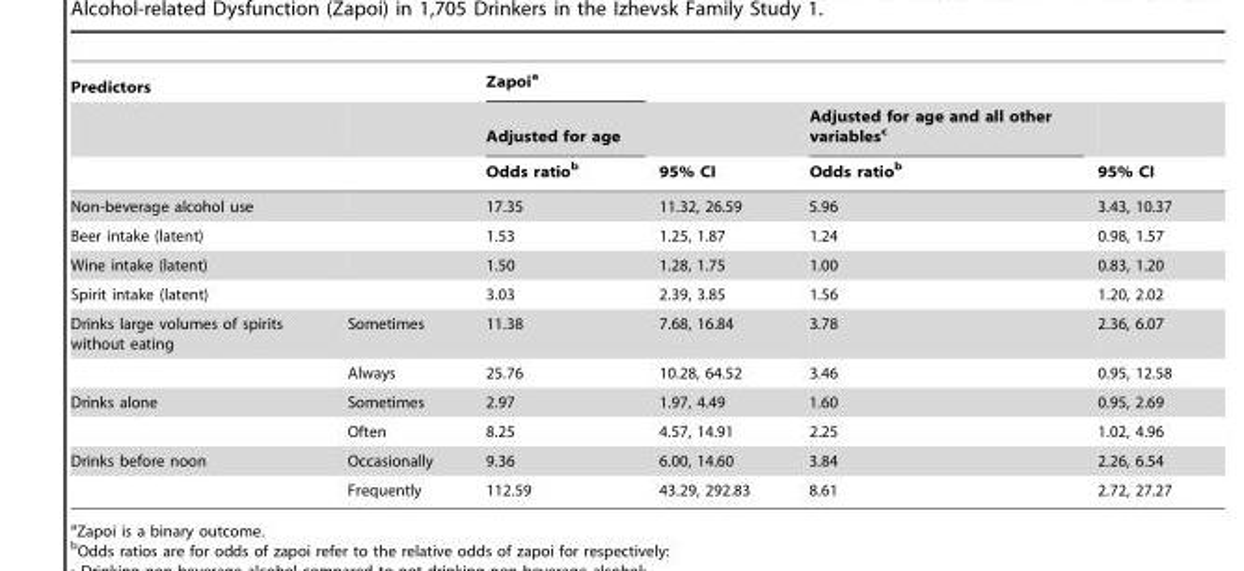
<table><thead><tr><td rowspan="3">Predictors</td><td rowspan="3"></td><td rowspan="3">Zapoi<sup>a</sup> Adjusted for age Odds ratio<sup>b</sup></td><td rowspan="3">95% CI</td><td rowspan="3">Adjusted for age and all other variables<sup>c</sup> Odds ratio<sup>b</sup></td><td rowspan="3">95% CI</td></tr><tr></tr><tr></tr></thead><tbody><tr><td>Non-beverage alcohol use</td><td></td><td>17.35</td><td>11.32, 26.59</td><td>5.96</td><td>3.43, 10.37</td></tr><tr><td>Beer intake (latent)</td><td></td><td>1.53</td><td>1.25, 1.87</td><td>1.24</td><td>0.98, 1.57</td></tr><tr><td>Wine intake (latent)</td><td></td><td>1.50</td><td>1.28, 1.75</td><td>1.00</td><td>0.83, 1.20</td></tr><tr><td>Spirit intake (latent)</td><td></td><td>3.03</td><td>2.39, 3.85</td><td>1.56</td><td>1.20, 2.02</td></tr><tr><td rowspan="2">Drinks large volumes of spirits without eating</td><td>Sometimes</td><td>11.38</td><td>7.68, 16.84</td><td>3.78</td><td>2.36, 6.07</td></tr><tr><td>Always</td><td>25.76</td><td>10.28, 64.52</td><td>3.46</td><td>0.95, 12.58</td></tr><tr><td rowspan="2">Drinks alone</td><td>Sometimes</td><td>2.97</td><td>1.97, 4.49</td><td>1.60</td><td>0.95, 2.69</td></tr><tr><td>Often</td><td>8.25</td><td>4.57, 14.91</td><td>2.25</td><td>1.02, 4.96</td></tr><tr><td rowspan="2">Drinks before noon</td><td>Occasionally</td><td>9.36</td><td>6.00, 14.60</td><td>3.84</td><td>2.26, 6.54</td></tr><tr><td>Frequently</td><td>112.59</td><td>43.29, 292.83</td><td>8.61</td><td>2.72, 27.27</td></tr></tbody></table>